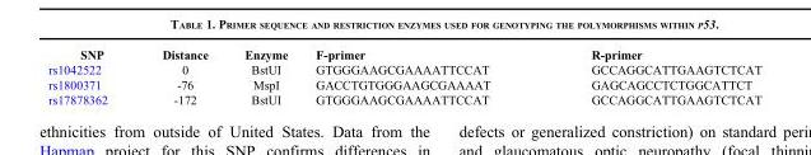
<table><thead><tr><td>SNP</td><td>Distance</td><td>Enzyme</td><td>F-primer</td><td>R-primer</td></tr></thead><tbody><tr><td>rs1042522</td><td>0</td><td>BstUI</td><td>GTGGGAAGCGAAAATTCCAT</td><td>GCCAGGCATTGAAGTCTCAT</td></tr><tr><td>rs1800371</td><td>-76</td><td>MspI</td><td>GACCTGTGGGAAGCGAAAAT</td><td>GAGCAGCCTCTGGCATTCT</td></tr><tr><td>rs17878362</td><td>-172</td><td>BstUI</td><td>GTGGGAAGCGAAAATTCCAT</td><td>GCCAGGCATTGAAGTCTCAT</td></tr></tbody></table>